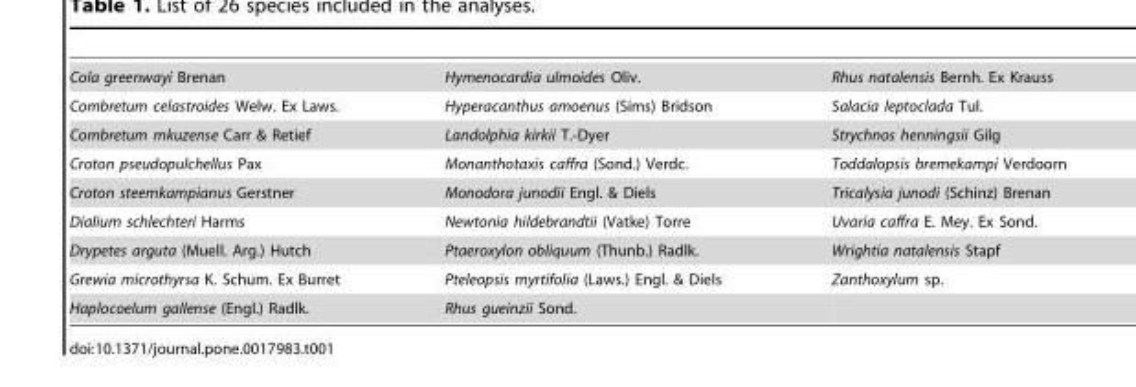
<table><tbody><tr><td>Cola greenwayi Brenan</td><td>Hymenocardia ulmoides Oliv.</td><td>Rhus natalensis Bernh. Ex Krauss</td></tr><tr><td>Combretum celastroides Welw. Ex Laws.</td><td>Hyperacanthus amoenus (Sims) Bridson</td><td>Salacia leptoclada Tul.</td></tr><tr><td>Combretum mkuzense Carr &amp; Retief</td><td>Landolphia kirkii T.-Dyer</td><td>Strychnos henningsii Gilg</td></tr><tr><td>Croton pseudopulchellus Pax</td><td>Monanthotaxis caffra (Sond.) Verdc.</td><td>Toddalopsis bremekampi Verdoorn</td></tr><tr><td>Croton steemkampianus Gerstner</td><td>Monodora junodii Engl. &amp; Diels</td><td>Tricalysia junodi (Schinz) Brenan</td></tr><tr><td>Dialium schlechteri Harms</td><td>Newtonia hildebrandtii (Vatke) Torre</td><td>Uvaria caffra E. Mey. Ex Sond.</td></tr><tr><td>Drypetes arguta (Muell. Arg.) Hutch</td><td>Ptaeroxylon obliquum (Thunb.) Radlk.</td><td>Wrightia natalensis Stapf</td></tr><tr><td>Grewia microthyrsa K. Schum. Ex Burret</td><td>Pteleopsis myrtifolia (Laws.) Engl. &amp; Diels</td><td>Zanthoxylum sp.</td></tr><tr><td>Haplocoelum gallense (Engl.) Radlk.</td><td>Rhus gueinzii Sond.</td><td></td></tr></tbody></table>